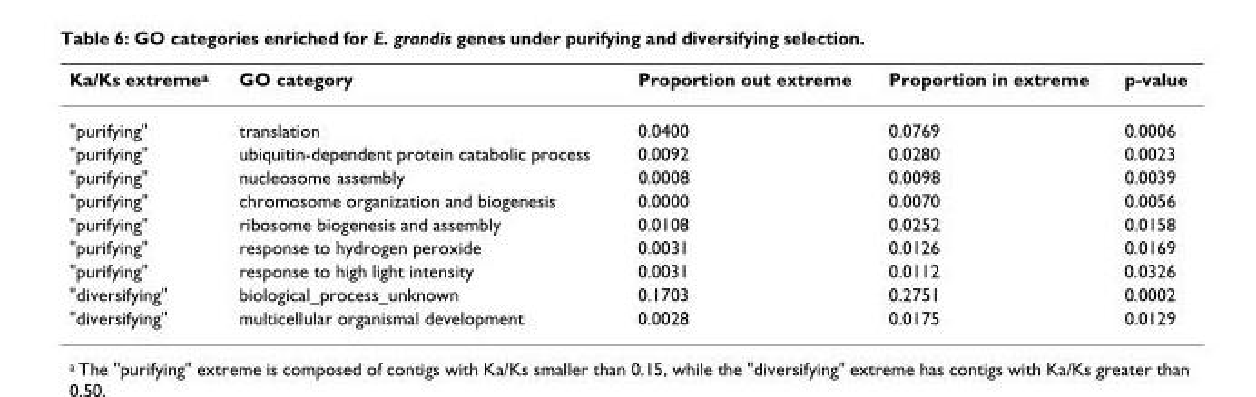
<table><thead><tr><td>Ka/Ks extreme<sup>a</sup></td><td>GO category</td><td>Proportion out extreme</td><td>Proportion in extreme</td><td>p-value</td></tr></thead><tbody><tr><td>&quot;purifying&quot;</td><td>translation</td><td>0.0400</td><td>0.0769</td><td>0.0006</td></tr><tr><td>&quot;purifying&quot;</td><td>ubiquitin-dependent protein catabolic process</td><td>0.0092</td><td>0.0280</td><td>0.0023</td></tr><tr><td>&quot;purifying&quot;</td><td>nucleosome assembly</td><td>0.0008</td><td>0.0098</td><td>0.0039</td></tr><tr><td>&quot;purifying&quot;</td><td>chromosome organization and biogenesis</td><td>0.0000</td><td>0.0070</td><td>0.0056</td></tr><tr><td>&quot;purifying&quot;</td><td>ribosome biogenesis and assembly</td><td>0.0108</td><td>0.0252</td><td>0.0158</td></tr><tr><td>&quot;purifying&quot;</td><td>response to hydrogen peroxide</td><td>0.0031</td><td>0.0126</td><td>0.0169</td></tr><tr><td>&quot;purifying&quot;</td><td>response to high light intensity</td><td>0.0031</td><td>0.0112</td><td>0.0326</td></tr><tr><td>&quot;diversifying&quot;</td><td>biological_process_unknown</td><td>0.1703</td><td>0.2751</td><td>0.0002</td></tr><tr><td>&quot;diversifying&quot;</td><td>multicellular organismal development</td><td>0.0028</td><td>0.0175</td><td>0.0129</td></tr></tbody></table>